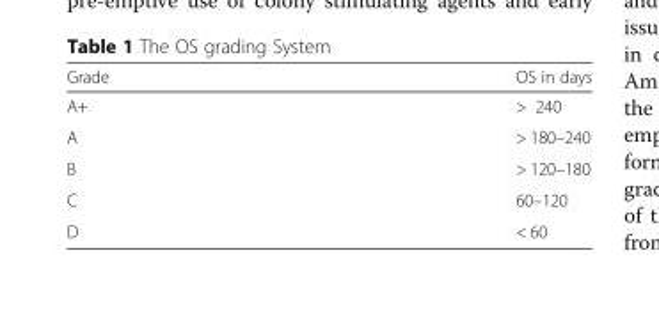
<table><thead><tr><td>Grade</td><td>OS in days</td></tr></thead><tbody><tr><td>A+</td><td>&gt; 240</td></tr><tr><td>A</td><td>&gt; 180–240</td></tr><tr><td>B</td><td>&gt; 120–180</td></tr><tr><td>C</td><td>60–120</td></tr><tr><td>D</td><td>&lt; 60</td></tr></tbody></table>